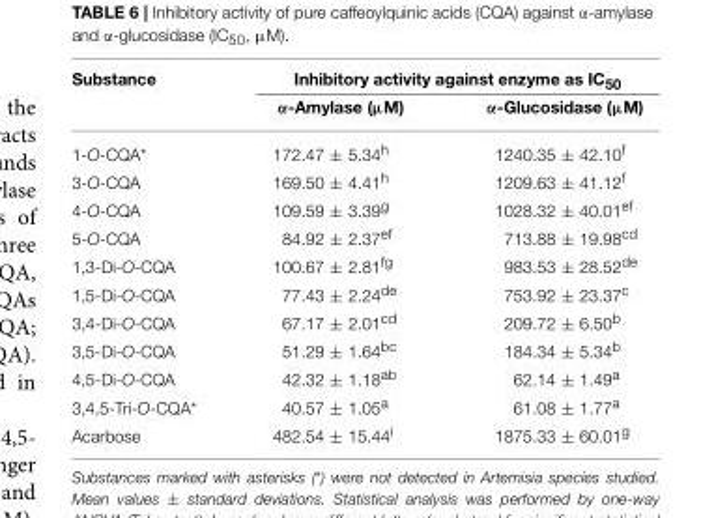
<table><thead><tr><td rowspan="2">Substance</td><td colspan="2">Inhibitory activity against enzyme as IC<sub>50</sub></td></tr><tr><td>α-Amylase (µM)</td><td>α-Glucosidase (µM)</td></tr></thead><tbody><tr><td>1-O-CQA*</td><td>172.47 ± 5.34<sup>h</sup></td><td>1240.35 ± 42.10<sup>f</sup></td></tr><tr><td>3-O-CQA</td><td>169.50 ± 4.41<sup>h</sup></td><td>1209.63 ± 41.12<sup>f</sup></td></tr><tr><td>4-O-CQA</td><td>109.59 ± 3.39<sup>g</sup></td><td>1028.32 ± 40.01<sup>ef</sup></td></tr><tr><td>5-O-CQA</td><td>84.92 ± 2.37<sup>ef</sup></td><td>713.88 ± 19.98<sup>cd</sup></td></tr><tr><td>1,3-Di-O-CQA</td><td>100.67 ± 2.81<sup>fg</sup></td><td>983.53 ± 28.52<sup>de</sup></td></tr><tr><td>1,5-Di-O-CQA</td><td>77.43 ± 2.24<sup>de</sup></td><td>753.92 ± 23.37<sup>c</sup></td></tr><tr><td>3,4-Di-O-CQA</td><td>67.17 ± 2.01<sup>cd</sup></td><td>209.72 ± 6.50<sup>b</sup></td></tr><tr><td>3,5-Di-O-CQA</td><td>51.29 ± 1.64<sup>bc</sup></td><td>184.34 ± 5.34<sup>b</sup></td></tr><tr><td>4,5-Di-O-CQA</td><td>42.32 ± 1.18<sup>ab</sup></td><td>62.14 ± 1.49<sup>a</sup></td></tr><tr><td>3,4,5-Tri-O-CQA*</td><td>40.57 ± 1.05<sup>a</sup></td><td>61.08 ± 1.77<sup>a</sup></td></tr><tr><td>Acarbose</td><td>482.54 ± 15.44<sup>i</sup></td><td>1875.33 ± 60.01<sup>g</sup></td></tr></tbody></table>